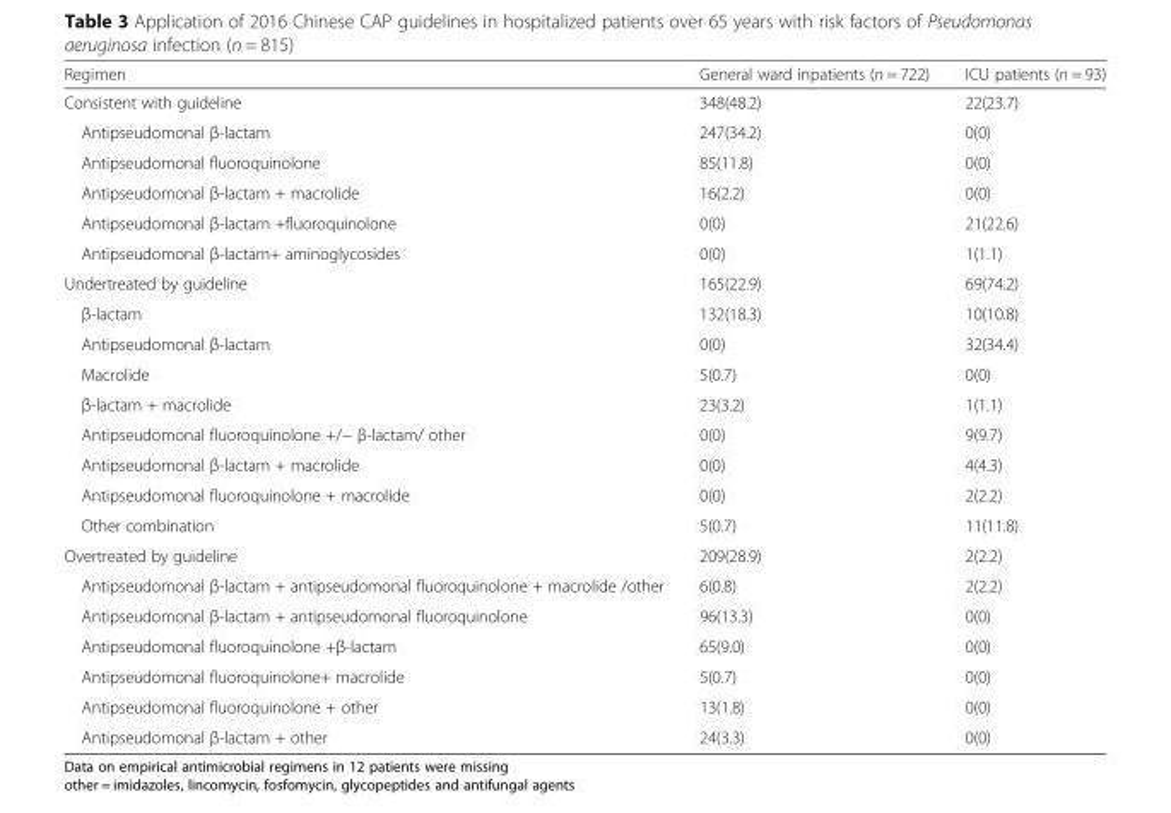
<table><thead><tr><td>Regimen</td><td>General ward inpatients (n = 722)</td><td>ICU patients (n = 93)</td></tr></thead><tbody><tr><td>Consistent with guideline</td><td>348(48.2)</td><td>22(23.7)</td></tr><tr><td>Antipseudomonal β-lactam</td><td>247(34.2)</td><td>0(0)</td></tr><tr><td>Antipseudomonal fluoroquinolone</td><td>85(11.8)</td><td>0(0)</td></tr><tr><td>Antipseudomonal β-lactam + macrolide</td><td>16(2.2)</td><td>0(0)</td></tr><tr><td>Antipseudomonal β-lactam +fluoroquinolone</td><td>0(0)</td><td>21(22.6)</td></tr><tr><td>Antipseudomonal β-lactam+ aminoglycosides</td><td>0(0)</td><td>1(1.1)</td></tr><tr><td>Undertreated by guideline</td><td>165(22.9)</td><td>69(74.2)</td></tr><tr><td>β-lactam</td><td>132(18.3)</td><td>10(10.8)</td></tr><tr><td>Antipseudomonal β-lactam</td><td>0(0)</td><td>32(34.4)</td></tr><tr><td>Macrolide</td><td>5(0.7)</td><td>0(0)</td></tr><tr><td>β-lactam + macrolide</td><td>23(3.2)</td><td>1(1.1)</td></tr><tr><td>Antipseudomonal fluoroquinolone +/− β-lactam/ other</td><td>0(0)</td><td>9(9.7)</td></tr><tr><td>Antipseudomonal β-lactam + macrolide</td><td>0(0)</td><td>4(4.3)</td></tr><tr><td>Antipseudomonal fluoroquinolone + macrolide</td><td>0(0)</td><td>2(2.2)</td></tr><tr><td>Other combination</td><td>5(0.7)</td><td>11(11.8)</td></tr><tr><td>Overtreated by guideline</td><td>209(28.9)</td><td>2(2.2)</td></tr><tr><td>Antipseudomonal β-lactam + antipseudomonal fluoroquinolone + macrolide /other</td><td>6(0.8)</td><td>2(2.2)</td></tr><tr><td>Antipseudomonal β-lactam + antipseudomonal fluoroquinolone</td><td>96(13.3)</td><td>0(0)</td></tr><tr><td>Antipseudomonal fluoroquinolone +β-lactam</td><td>65(9.0)</td><td>0(0)</td></tr><tr><td>Antipseudomonal fluoroquinolone+ macrolide</td><td>5(0.7)</td><td>0(0)</td></tr><tr><td>Antipseudomonal fluoroquinolone + other</td><td>13(1.8)</td><td>0(0)</td></tr><tr><td>Antipseudomonal β-lactam + other</td><td>24(3.3)</td><td>0(0)</td></tr></tbody></table>